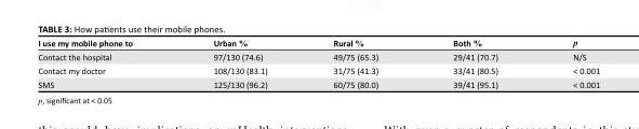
<table><thead><tr><td>I use my mobile phone to</td><td>Urban %</td><td>Rural %</td><td>Both %</td><td>p</td></tr></thead><tbody><tr><td>Contact the hospital</td><td>97/130 (74.6)</td><td>49/75 (65.3)</td><td>29/41 (70.7)</td><td>N/S</td></tr><tr><td>Contact my doctor</td><td>108/130 (83.1)</td><td>31/75 (41.3)</td><td>33/41 (80.5)</td><td>&lt; 0.001</td></tr><tr><td>SMS</td><td>125/130 (96.2)</td><td>60/75 (80.0)</td><td>39/41 (95.1)</td><td>&lt; 0.001</td></tr></tbody></table>